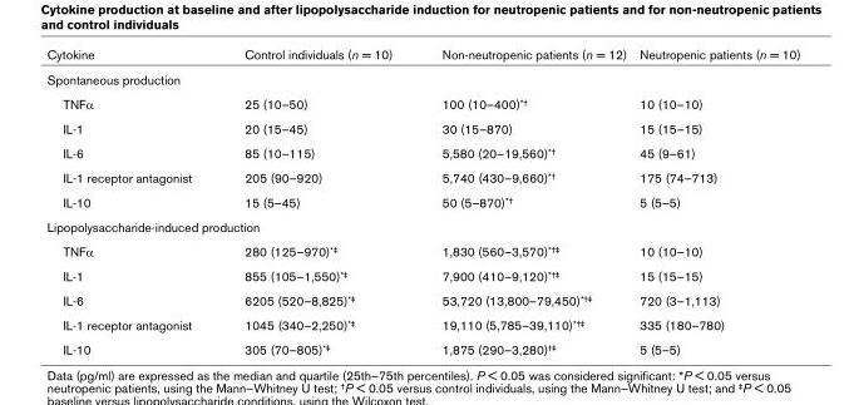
<table><thead><tr><td>Cytokine</td><td>Control individuals (n = 10)</td><td>Non-neutropenic patients (n = 12)</td><td>Neutropenic patients (n = 10)</td></tr></thead><tbody><tr><td colspan="4">Spontaneous production</td></tr><tr><td>TNFα</td><td>25 (10–50)</td><td>100 (10–400)<sup>*†</sup></td><td>10 (10–10)</td></tr><tr><td>IL-1</td><td>20 (15–45)</td><td>30 (15–870)</td><td>15 (15–15)</td></tr><tr><td>IL-6</td><td>85 (10–115)</td><td>5,580 (20–19,560)<sup>*†</sup></td><td>45 (9–61)</td></tr><tr><td>IL-1 receptor antagonist</td><td>205 (90–920)</td><td>5,740 (430–9,660)<sup>*†</sup></td><td>175 (74–713)</td></tr><tr><td>IL-10</td><td>15 (5–45)</td><td>50 (5–870)<sup>*†</sup></td><td>5 (5–5)</td></tr><tr><td colspan="4">Lipopolysaccharide-induced production</td></tr><tr><td>TNFα</td><td>280 (125–970)<sup>*‡</sup></td><td>1,830 (560–3,570)<sup>*†‡</sup></td><td>10 (10–10)</td></tr><tr><td>IL-1</td><td>855 (105–1,550)<sup>*‡</sup></td><td>7,900 (410–9,120)<sup>*†‡</sup></td><td>15 (15–15)</td></tr><tr><td>IL-6</td><td>6205 (520–8,825)<sup>*‡</sup></td><td>53,720 (13,800–79,450)<sup>*†‡</sup></td><td>720 (3–1,113)</td></tr><tr><td>IL-1 receptor antagonist</td><td>1045 (340–2,250)<sup>*‡</sup></td><td>19,110 (5,785–39,110)<sup>*†‡</sup></td><td>335 (180–780)</td></tr><tr><td>IL-10</td><td>305 (70–805)<sup>*‡</sup></td><td>1,875 (290–3,280)<sup>†‡</sup></td><td>5 (5–5)</td></tr></tbody></table>